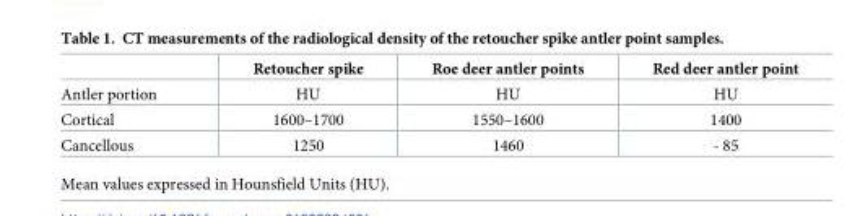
<table><thead><tr><td></td><td>Retoucher spike</td><td>Roe deer antler points</td><td>Red deer antler point</td></tr></thead><tbody><tr><td>Antler portion</td><td>HU</td><td>HU</td><td>HU</td></tr><tr><td>Cortical</td><td>1600–1700</td><td>1550–1600</td><td>1400</td></tr><tr><td>Cancellous</td><td>1250</td><td>1460</td><td>- 85</td></tr></tbody></table>